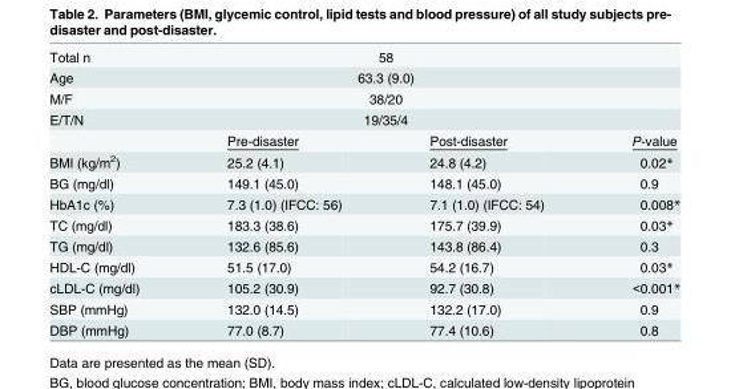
<table><tbody><tr><td>Total n</td><td colspan="2">58</td><td></td></tr><tr><td>Age</td><td colspan="2">63.3 (9.0)</td><td></td></tr><tr><td>M/F</td><td colspan="2">38/20</td><td></td></tr><tr><td rowspan="2">E/T/N</td><td colspan="2">19/35/4</td><td></td></tr><tr><td>Pre-disaster</td><td>Post-disaster</td><td>P-value</td></tr><tr><td>BMI (kg/m<sup>2</sup>)</td><td>25.2 (4.1)</td><td>24.8 (4.2)</td><td>0.02*</td></tr><tr><td>BG (mg/dl)</td><td>149.1 (45.0)</td><td>148.1 (45.0)</td><td>0.9</td></tr><tr><td>HbA1c (%)</td><td>7.3 (1.0) (IFCC: 56)</td><td>7.1 (1.0) (IFCC: 54)</td><td>0.008*</td></tr><tr><td>TC (mg/dl)</td><td>183.3 (38.6)</td><td>175.7 (39.9)</td><td>0.03*</td></tr><tr><td>TG (mg/dl)</td><td>132.6 (85.6)</td><td>143.8 (86.4)</td><td>0.3</td></tr><tr><td>HDL-C (mg/dl)</td><td>51.5 (17.0)</td><td>54.2 (16.7)</td><td>0.03*</td></tr><tr><td>cLDL-C (mg/dl)</td><td>105.2 (30.9)</td><td>92.7 (30.8)</td><td>&lt;0.001*</td></tr><tr><td>SBP (mmHg)</td><td>132.0 (14.5)</td><td>132.2 (17.0)</td><td>0.9</td></tr><tr><td>DBP (mmHg)</td><td>77.0 (8.7)</td><td>77.4 (10.6)</td><td>0.8</td></tr></tbody></table>